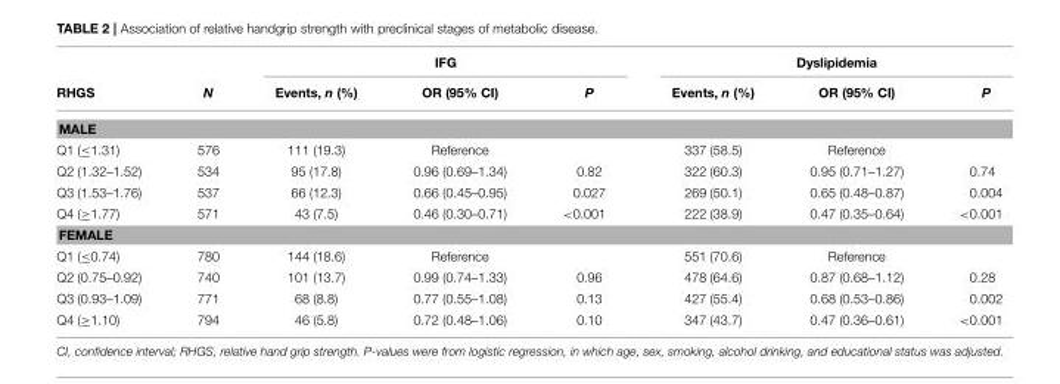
<table><thead><tr><td rowspan="2">RHGS</td><td rowspan="2">N</td><td colspan="3">IFG</td><td colspan="3">Dyslipidemia</td></tr><tr><td>Events, n (%)</td><td>OR (95% CI)</td><td>P</td><td>Events, n (%)</td><td>OR (95% CI)</td><td>P</td></tr></thead><tbody><tr><td colspan="8">MALE</td></tr><tr><td>Q1 (≤1.31)</td><td>576</td><td>111 (19.3)</td><td>Reference</td><td></td><td>337 (58.5)</td><td>Reference</td><td></td></tr><tr><td>Q2 (1.32–1.52)</td><td>534</td><td>95 (17.8)</td><td>0.96 (0.69–1.34)</td><td>0.82</td><td>322 (60.3)</td><td>0.95 (0.71–1.27)</td><td>0.74</td></tr><tr><td>Q3 (1.53–1.76)</td><td>537</td><td>66 (12.3)</td><td>0.66 (0.45–0.95)</td><td>0.027</td><td>269 (50.1)</td><td>0.65 (0.48–0.87)</td><td>0.004</td></tr><tr><td>Q4 (≥1.77)</td><td>571</td><td>43 (7.5)</td><td>0.46 (0.30–0.71)</td><td>&lt;0.001</td><td>222 (38.9)</td><td>0.47 (0.35–0.64)</td><td>&lt;0.001</td></tr><tr><td colspan="8">FEMALE</td></tr><tr><td>Q1 (≤0.74)</td><td>780</td><td>144 (18.6)</td><td>Reference</td><td></td><td>551 (70.6)</td><td>Reference</td><td></td></tr><tr><td>Q2 (0.75–0.92)</td><td>740</td><td>101 (13.7)</td><td>0.99 (0.74–1.33)</td><td>0.96</td><td>478 (64.6)</td><td>0.87 (0.68–1.12)</td><td>0.28</td></tr><tr><td>Q3 (0.93–1.09)</td><td>771</td><td>68 (8.8)</td><td>0.77 (0.55–1.08)</td><td>0.13</td><td>427 (55.4)</td><td>0.68 (0.53–0.86)</td><td>0.002</td></tr><tr><td>Q4 (≥1.10)</td><td>794</td><td>46 (5.8)</td><td>0.72 (0.48–1.06)</td><td>0.10</td><td>347 (43.7)</td><td>0.47 (0.36–0.61)</td><td>&lt;0.001</td></tr></tbody></table>